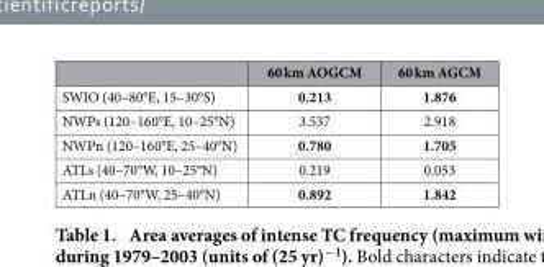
<table><thead><tr><td></td><td>60 km AOGCM</td><td>60 km AGCM</td></tr></thead><tbody><tr><td>SWIO (40–80°E, 15–30°S)</td><td>0.213</td><td>1.876</td></tr><tr><td>NWPs (120–160°E, 10–25°N)</td><td>3.537</td><td>2.918</td></tr><tr><td>NWPn (120–160°E, 25–40°N)</td><td>0.780</td><td>1.705</td></tr><tr><td>ATLs (40–70°W, 10–25°N)</td><td>0.219</td><td>0.053</td></tr><tr><td>ATLn (40–70°W, 25–40°N)</td><td>0.892</td><td>1.842</td></tr></tbody></table>